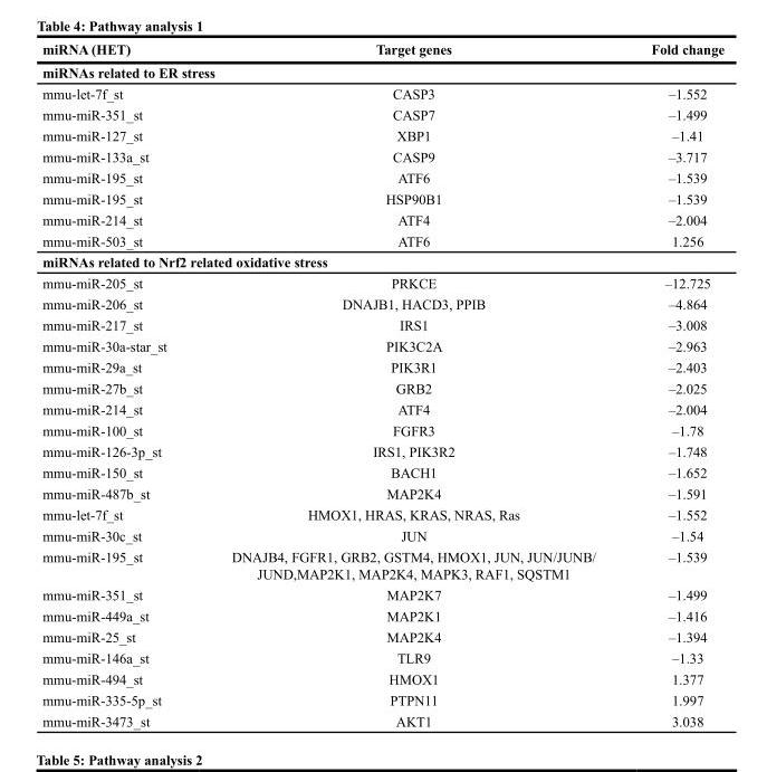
<table><thead><tr><td>miRNA (HET)</td><td>Target genes</td><td>Fold change</td></tr></thead><tbody><tr><td colspan="3">miRNAs related to ER stress</td></tr><tr><td>mmu-let-7f_st</td><td>CASP3</td><td>–1.552</td></tr><tr><td>mmu-miR-351_st</td><td>CASP7</td><td>–1.499</td></tr><tr><td>mmu-miR-127_st</td><td>XBP1</td><td>–1.41</td></tr><tr><td>mmu-miR-133a_st</td><td>CASP9</td><td>–3.717</td></tr><tr><td>mmu-miR-195_st</td><td>ATF6</td><td>–1.539</td></tr><tr><td>mmu-miR-195_st</td><td>HSP90B1</td><td>–1.539</td></tr><tr><td>mmu-miR-214_st</td><td>ATF4</td><td>–2.004</td></tr><tr><td>mmu-miR-503_st</td><td>ATF6</td><td>1.256</td></tr><tr><td colspan="3">miRNAs related to Nrf2 related oxidative stress</td></tr><tr><td>mmu-miR-205_st</td><td>PRKCE</td><td>–12.725</td></tr><tr><td>mmu-miR-206_st</td><td>DNAJB1, HACD3, PPIB</td><td>–4.864</td></tr><tr><td>mmu-miR-217_st</td><td>IRS1</td><td>–3.008</td></tr><tr><td>mmu-miR-30a-star_st</td><td>PIK3C2A</td><td>–2.963</td></tr><tr><td>mmu-miR-29a_st</td><td>PIK3R1</td><td>–2.403</td></tr><tr><td>mmu-miR-27b_st</td><td>GRB2</td><td>–2.025</td></tr><tr><td>mmu-miR-214_st</td><td>ATF4</td><td>–2.004</td></tr><tr><td>mmu-miR-100_st</td><td>FGFR3</td><td>–1.78</td></tr><tr><td>mmu-miR-126-3p_st</td><td>IRS1, PIK3R2</td><td>–1.748</td></tr><tr><td>mmu-miR-150_st</td><td>BACH1</td><td>–1.652</td></tr><tr><td>mmu-miR-487b_st</td><td>MAP2K4</td><td>–1.591</td></tr><tr><td>mmu-let-7f_st</td><td>HMOX1, HRAS, KRAS, NRAS, Ras</td><td>–1.552</td></tr><tr><td>mmu-miR-30c_st</td><td>JUN</td><td>–1.54</td></tr><tr><td>mmu-miR-195_st</td><td>DNAJB4, FGFR1, GRB2, GSTM4, HMOX1, JUN, JUN/JUNB/ JUND,MAP2K1, MAP2K4, MAPK3, RAF1, SQSTM1</td><td>–1.539</td></tr><tr><td>mmu-miR-351_st</td><td>MAP2K7</td><td>–1.499</td></tr><tr><td>mmu-miR-449a_st</td><td>MAP2K1</td><td>–1.416</td></tr><tr><td>mmu-miR-25_st</td><td>MAP2K4</td><td>–1.394</td></tr><tr><td>mmu-miR-146a_st</td><td>TLR9</td><td>–1.33</td></tr><tr><td>mmu-miR-494_st</td><td>HMOX1</td><td>1.377</td></tr><tr><td>mmu-miR-335-5p_st</td><td>PTPN11</td><td>1.997</td></tr><tr><td>mmu-miR-3473_st</td><td>AKT1</td><td>3.038</td></tr></tbody></table>